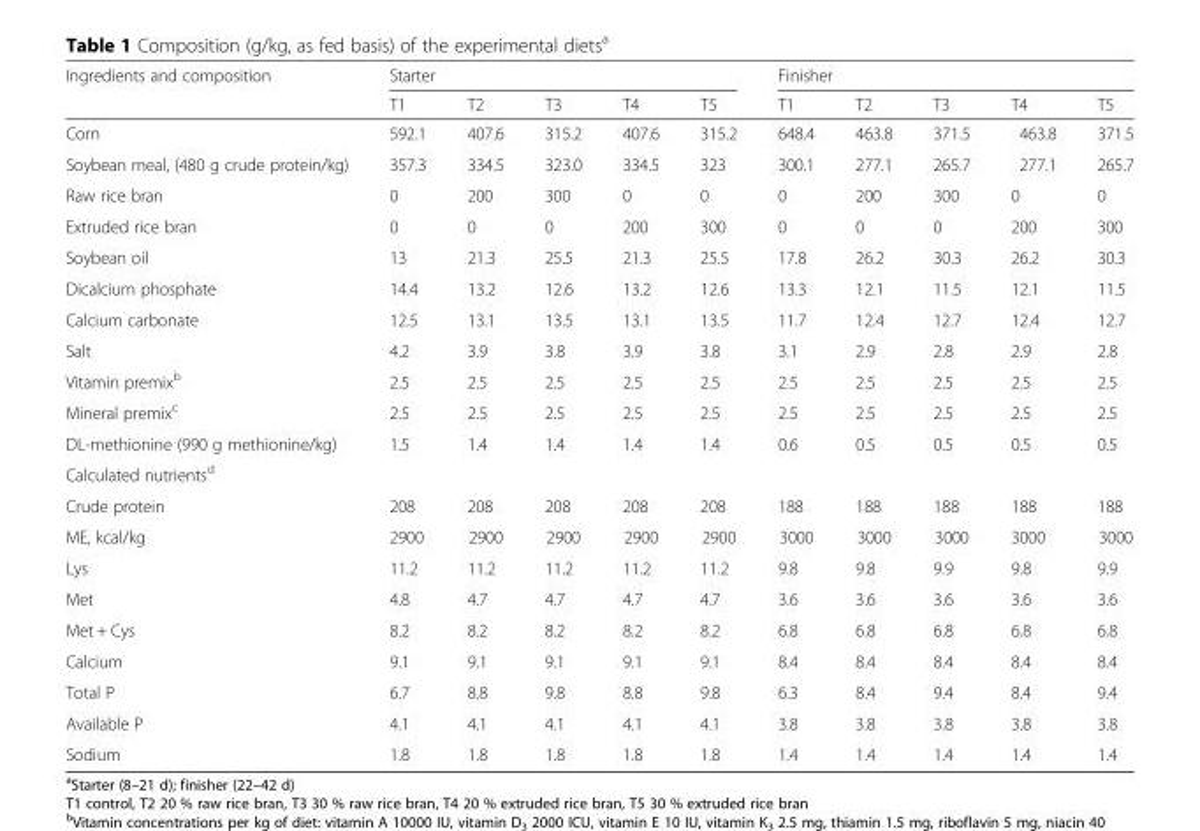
<table><thead><tr><td rowspan="2">Ingredients and composition</td><td colspan="5">Starter</td><td colspan="5">Finisher</td></tr><tr><td>T1</td><td>T2</td><td>T3</td><td>T4</td><td>T5</td><td>T1</td><td>T2</td><td>T3</td><td>T4</td><td>T5</td></tr></thead><tbody><tr><td>Corn</td><td>592.1</td><td>407.6</td><td>315.2</td><td>407.6</td><td>315.2</td><td>648.4</td><td>463.8</td><td>371.5</td><td>463.8</td><td>371.5</td></tr><tr><td>Soybean meal, (480 g crude protein/kg)</td><td>357.3</td><td>334.5</td><td>323.0</td><td>334.5</td><td>323</td><td>300.1</td><td>277.1</td><td>265.7</td><td>277.1</td><td>265.7</td></tr><tr><td>Raw rice bran</td><td>0</td><td>200</td><td>300</td><td>0</td><td>0</td><td>0</td><td>200</td><td>300</td><td>0</td><td>0</td></tr><tr><td>Extruded rice bran</td><td>0</td><td>0</td><td>0</td><td>200</td><td>300</td><td>0</td><td>0</td><td>0</td><td>200</td><td>300</td></tr><tr><td>Soybean oil</td><td>13</td><td>21.3</td><td>25.5</td><td>21.3</td><td>25.5</td><td>17.8</td><td>26.2</td><td>30.3</td><td>26.2</td><td>30.3</td></tr><tr><td>Dicalcium phosphate</td><td>14.4</td><td>13.2</td><td>12.6</td><td>13.2</td><td>12.6</td><td>13.3</td><td>12.1</td><td>11.5</td><td>12.1</td><td>11.5</td></tr><tr><td>Calcium carbonate</td><td>12.5</td><td>13.1</td><td>13.5</td><td>13.1</td><td>13.5</td><td>11.7</td><td>12.4</td><td>12.7</td><td>12.4</td><td>12.7</td></tr><tr><td>Salt</td><td>4.2</td><td>3.9</td><td>3.8</td><td>3.9</td><td>3.8</td><td>3.1</td><td>2.9</td><td>2.8</td><td>2.9</td><td>2.8</td></tr><tr><td>Vitamin premix<sup>b</sup></td><td>2.5</td><td>2.5</td><td>2.5</td><td>2.5</td><td>2.5</td><td>2.5</td><td>2.5</td><td>2.5</td><td>2.5</td><td>2.5</td></tr><tr><td>Mineral premix<sup>c</sup></td><td>2.5</td><td>2.5</td><td>2.5</td><td>2.5</td><td>2.5</td><td>2.5</td><td>2.5</td><td>2.5</td><td>2.5</td><td>2.5</td></tr><tr><td>DL-methionine (990 g methionine/kg)</td><td>1.5</td><td>1.4</td><td>1.4</td><td>1.4</td><td>1.4</td><td>0.6</td><td>0.5</td><td>0.5</td><td>0.5</td><td>0.5</td></tr><tr><td colspan="11">Calculated nutrients<sup>d</sup></td></tr><tr><td>Crude protein</td><td>208</td><td>208</td><td>208</td><td>208</td><td>208</td><td>188</td><td>188</td><td>188</td><td>188</td><td>188</td></tr><tr><td>ME, kcal/kg</td><td>2900</td><td>2900</td><td>2900</td><td>2900</td><td>2900</td><td>3000</td><td>3000</td><td>3000</td><td>3000</td><td>3000</td></tr><tr><td>Lys</td><td>11.2</td><td>11.2</td><td>11.2</td><td>11.2</td><td>11.2</td><td>9.8</td><td>9.8</td><td>9.9</td><td>9.8</td><td>9.9</td></tr><tr><td>Met</td><td>4.8</td><td>4.7</td><td>4.7</td><td>4.7</td><td>4.7</td><td>3.6</td><td>3.6</td><td>3.6</td><td>3.6</td><td>3.6</td></tr><tr><td>Met + Cys</td><td>8.2</td><td>8.2</td><td>8.2</td><td>8.2</td><td>8.2</td><td>6.8</td><td>6.8</td><td>6.8</td><td>6.8</td><td>6.8</td></tr><tr><td>Calcium</td><td>9.1</td><td>9.1</td><td>9.1</td><td>9.1</td><td>9.1</td><td>8.4</td><td>8.4</td><td>8.4</td><td>8.4</td><td>8.4</td></tr><tr><td>Total P</td><td>6.7</td><td>8.8</td><td>9.8</td><td>8.8</td><td>9.8</td><td>6.3</td><td>8.4</td><td>9.4</td><td>8.4</td><td>9.4</td></tr><tr><td>Available P</td><td>4.1</td><td>4.1</td><td>4.1</td><td>4.1</td><td>4.1</td><td>3.8</td><td>3.8</td><td>3.8</td><td>3.8</td><td>3.8</td></tr><tr><td>Sodium</td><td>1.8</td><td>1.8</td><td>1.8</td><td>1.8</td><td>1.8</td><td>1.4</td><td>1.4</td><td>1.4</td><td>1.4</td><td>1.4</td></tr></tbody></table>